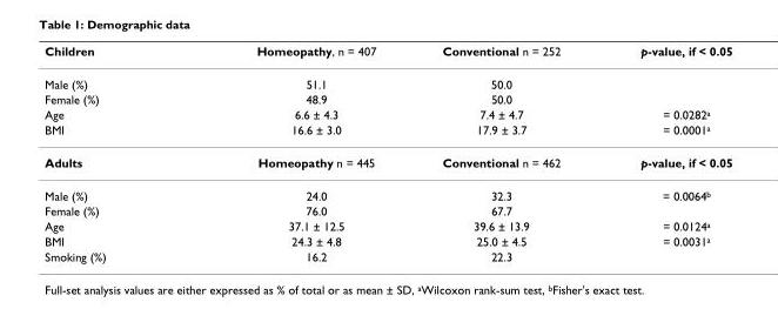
<table><thead><tr><td>Children</td><td>Homeopathy, n = 407</td><td>Conventional n = 252</td><td>p-value, if &lt; 0.05</td></tr></thead><tbody><tr><td>Male (%)</td><td>51.1</td><td>50.0</td><td></td></tr><tr><td>Female (%)</td><td>48.9</td><td>50.0</td><td></td></tr><tr><td>Age</td><td>6.6 ± 4.3</td><td>7.4 ± 4.7</td><td>= 0.0282<sup>a</sup></td></tr><tr><td>BMI</td><td>16.6 ± 3.0</td><td>17.9 ± 3.7</td><td>= 0.0001<sup>a</sup></td></tr><tr><td>Adults</td><td>Homeopathy n = 445</td><td>Conventional n = 462</td><td>p-value, if &lt; 0.05</td></tr><tr><td>Male (%)</td><td>24.0</td><td>32.3</td><td>= 0.0064<sup>b</sup></td></tr><tr><td>Female (%)</td><td>76.0</td><td>67.7</td><td></td></tr><tr><td>Age</td><td>37.1 ± 12.5</td><td>39.6 ± 13.9</td><td>= 0.0124<sup>a</sup></td></tr><tr><td>BMI</td><td>24.3 ± 4.8</td><td>25.0 ± 4.5</td><td>= 0.0031<sup>a</sup></td></tr><tr><td>Smoking (%)</td><td>16.2</td><td>22.3</td><td></td></tr></tbody></table>